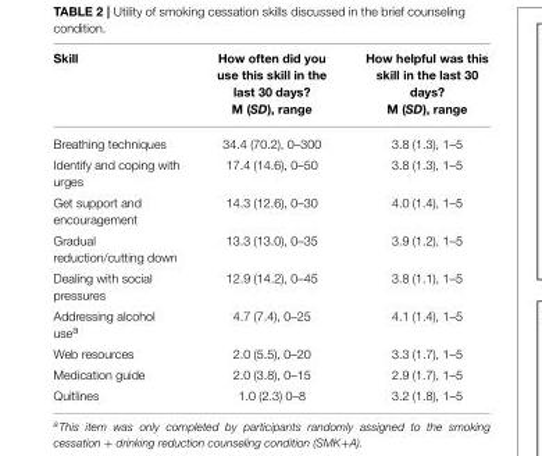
<table><thead><tr><td>Skill</td><td>How often did you use this skill in the last 30 days? M (SD), range</td><td>How helpful was this skill in the last 30 days? M (SD), range</td></tr></thead><tbody><tr><td>Breathing techniques</td><td>34.4 (70.2), 0–300</td><td>3.8 (1.3), 1–5</td></tr><tr><td>Identify and coping with urges</td><td>17.4 (14.6), 0–50</td><td>3.8 (1.3), 1–5</td></tr><tr><td>Get support and encouragement</td><td>14.3 (12.6), 0–30</td><td>4.0 (1.4), 1–5</td></tr><tr><td>Gradual reduction/cutting down</td><td>13.3 (13.0), 0–35</td><td>3.9 (1.2), 1–5</td></tr><tr><td>Dealing with social pressures</td><td>12.9 (14.2), 0–45</td><td>3.8 (1.1), 1–5</td></tr><tr><td>Addressing alcohol use<sup>a</sup></td><td>4.7 (7.4), 0–25</td><td>4.1 (1.4), 1–5</td></tr><tr><td>Web resources</td><td>2.0 (5.5), 0–20</td><td>3.3 (1.7), 1–5</td></tr><tr><td>Medication guide</td><td>2.0 (3.8), 0–15</td><td>2.9 (1.7), 1–5</td></tr><tr><td>Quitlines</td><td>1.0 (2.3) 0–8</td><td>3.2 (1.8), 1–5</td></tr></tbody></table>